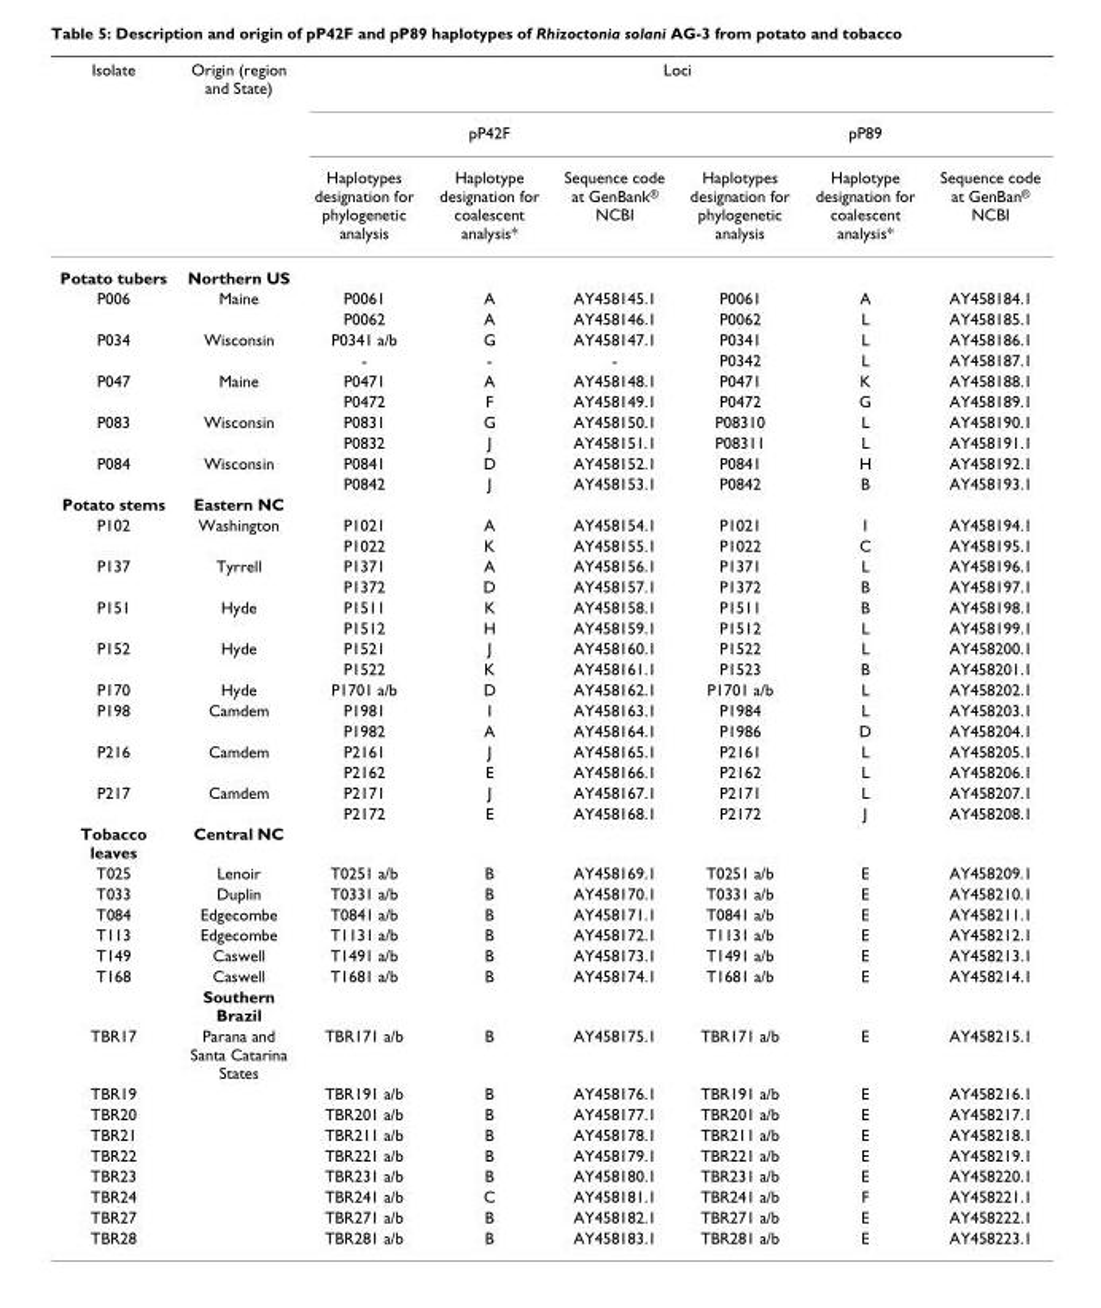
<table><thead><tr><td rowspan="3">Isolate</td><td rowspan="3">Origin (region and State)</td><td colspan="6">Loci</td></tr><tr><td colspan="3">pP42F</td><td colspan="3">pP89</td></tr><tr><td>Haplotypes designation for phylogenetic analysis</td><td>Haplotype designation for coalescent analysis*</td><td>Sequence code at GenBank<sup>®</sup> NCBI</td><td>Haplotypes designation for phylogenetic analysis</td><td>Haplotype designation for coalescent analysis*</td><td>Sequence code at GenBan<sup>®</sup> NCBI</td></tr></thead><tbody><tr><td>Potato tubers</td><td>Northern US</td><td></td><td></td><td></td><td></td><td></td><td></td></tr><tr><td rowspan="2">P006</td><td>Maine</td><td>P0061</td><td>A</td><td>AY458145.1</td><td>P0061</td><td>A</td><td>AY458184.1</td></tr><tr><td></td><td>P0062</td><td>A</td><td>AY458146.1</td><td>P0062</td><td>L</td><td>AY458185.1</td></tr><tr><td rowspan="2">P034</td><td>Wisconsin</td><td>P0341 a/b</td><td>G</td><td>AY458147.1</td><td>P0341</td><td>L</td><td>AY458186.1</td></tr><tr><td></td><td>-</td><td>-</td><td>-</td><td>P0342</td><td>L</td><td>AY458187.1</td></tr><tr><td rowspan="2">P047</td><td>Maine</td><td>P0471</td><td>A</td><td>AY458148.1</td><td>P0471</td><td>K</td><td>AY458188.1</td></tr><tr><td></td><td>P0472</td><td>F</td><td>AY458149.1</td><td>P0472</td><td>G</td><td>AY458189.1</td></tr><tr><td rowspan="2">P083</td><td>Wisconsin</td><td>P0831</td><td>G</td><td>AY458150.1</td><td>P08310</td><td>L</td><td>AY458190.1</td></tr><tr><td></td><td>P0832</td><td>J</td><td>AY458151.1</td><td>P08311</td><td>L</td><td>AY458191.1</td></tr><tr><td rowspan="2">P084</td><td>Wisconsin</td><td>P0841</td><td>D</td><td>AY458152.1</td><td>P0841</td><td>H</td><td>AY458192.1</td></tr><tr><td></td><td>P0842</td><td>J</td><td>AY458153.1</td><td>P0842</td><td>B</td><td>AY458193.1</td></tr><tr><td>Potato stems</td><td>Eastern NC</td><td></td><td></td><td></td><td></td><td></td><td></td></tr><tr><td rowspan="2">P102</td><td>Washington</td><td>P1021</td><td>A</td><td>AY458154.1</td><td>P1021</td><td>I</td><td>AY458194.1</td></tr><tr><td></td><td>P1022</td><td>K</td><td>AY458155.1</td><td>P1022</td><td>C</td><td>AY458195.1</td></tr><tr><td rowspan="2">P137</td><td>Tyrrell</td><td>P1371</td><td>A</td><td>AY458156.1</td><td>P1371</td><td>L</td><td>AY458196.1</td></tr><tr><td></td><td>P1372</td><td>D</td><td>AY458157.1</td><td>P1372</td><td>B</td><td>AY458197.1</td></tr><tr><td rowspan="2">P151</td><td>Hyde</td><td>P1511</td><td>K</td><td>AY458158.1</td><td>P1511</td><td>B</td><td>AY458198.1</td></tr><tr><td></td><td>P1512</td><td>H</td><td>AY458159.1</td><td>P1512</td><td>L</td><td>AY458199.1</td></tr><tr><td rowspan="2">P152</td><td>Hyde</td><td>P1521</td><td>J</td><td>AY458160.1</td><td>P1522</td><td>L</td><td>AY458200.1</td></tr><tr><td></td><td>P1522</td><td>K</td><td>AY458161.1</td><td>P1523</td><td>B</td><td>AY458201.1</td></tr><tr><td>P170</td><td>Hyde</td><td>P1701 a/b</td><td>D</td><td>AY458162.1</td><td>P1701 a/b</td><td>L</td><td>AY458202.1</td></tr><tr><td rowspan="2">P198</td><td>Camdem</td><td>P1981</td><td>I</td><td>AY458163.1</td><td>P1984</td><td>L</td><td>AY458203.1</td></tr><tr><td></td><td>P1982</td><td>A</td><td>AY458164.1</td><td>P1986</td><td>D</td><td>AY458204.1</td></tr><tr><td rowspan="2">P216</td><td>Camdem</td><td>P2161</td><td>J</td><td>AY458165.1</td><td>P2161</td><td>L</td><td>AY458205.1</td></tr><tr><td></td><td>P2162</td><td>E</td><td>AY458166.1</td><td>P2162</td><td>L</td><td>AY458206.1</td></tr><tr><td rowspan="2">P217</td><td>Camdem</td><td>P2171</td><td>J</td><td>AY458167.1</td><td>P2171</td><td>L</td><td>AY458207.1</td></tr><tr><td></td><td>P2172</td><td>E</td><td>AY458168.1</td><td>P2172</td><td>J</td><td>AY458208.1</td></tr><tr><td>Tobacco leaves</td><td>Central NC</td><td></td><td></td><td></td><td></td><td></td><td></td></tr><tr><td>T025</td><td>Lenoir</td><td>T0251 a/b</td><td>B</td><td>AY458169.1</td><td>T0251 a/b</td><td>E</td><td>AY458209.1</td></tr><tr><td>T033</td><td>Duplin</td><td>T0331 a/b</td><td>B</td><td>AY458170.1</td><td>T0331 a/b</td><td>E</td><td>AY458210.1</td></tr><tr><td>T084</td><td>Edgecombe</td><td>T0841 a/b</td><td>B</td><td>AY458171.1</td><td>T0841 a/b</td><td>E</td><td>AY458211.1</td></tr><tr><td>T113</td><td>Edgecombe</td><td>T1131 a/b</td><td>B</td><td>AY458172.1</td><td>T1131 a/b</td><td>E</td><td>AY458212.1</td></tr><tr><td>T149</td><td>Caswell</td><td>T1491 a/b</td><td>B</td><td>AY458173.1</td><td>T1491 a/b</td><td>E</td><td>AY458213.1</td></tr><tr><td rowspan="2">T168</td><td>Caswell</td><td>T1681 a/b</td><td>B</td><td>AY458174.1</td><td>T1681 a/b</td><td>E</td><td>AY458214.1</td></tr><tr><td>Southern Brazil</td><td></td><td></td><td></td><td></td><td></td><td></td></tr><tr><td>TBR17</td><td>Parana and Santa Catarina States</td><td>TBR171 a/b</td><td>B</td><td>AY458175.1</td><td>TBR171 a/b</td><td>E</td><td>AY458215.1</td></tr><tr><td>TBR19</td><td></td><td>TBR191 a/b</td><td>B</td><td>AY458176.1</td><td>TBR191 a/b</td><td>E</td><td>AY458216.1</td></tr><tr><td>TBR20</td><td></td><td>TBR201 a/b</td><td>B</td><td>AY458177.1</td><td>TBR201 a/b</td><td>E</td><td>AY458217.1</td></tr><tr><td>TBR21</td><td></td><td>TBR211 a/b</td><td>B</td><td>AY458178.1</td><td>TBR211 a/b</td><td>E</td><td>AY458218.1</td></tr><tr><td>TBR22</td><td></td><td>TBR221 a/b</td><td>B</td><td>AY458179.1</td><td>TBR221 a/b</td><td>E</td><td>AY458219.1</td></tr><tr><td>TBR23</td><td></td><td>TBR231 a/b</td><td>B</td><td>AY458180.1</td><td>TBR231 a/b</td><td>E</td><td>AY458220.1</td></tr><tr><td>TBR24</td><td></td><td>TBR241 a/b</td><td>C</td><td>AY458181.1</td><td>TBR241 a/b</td><td>F</td><td>AY458221.1</td></tr><tr><td>TBR27</td><td></td><td>TBR271 a/b</td><td>B</td><td>AY458182.1</td><td>TBR271 a/b</td><td>E</td><td>AY458222.1</td></tr><tr><td>TBR28</td><td></td><td>TBR281 a/b</td><td>B</td><td>AY458183.1</td><td>TBR281 a/b</td><td>E</td><td>AY458223.1</td></tr></tbody></table>